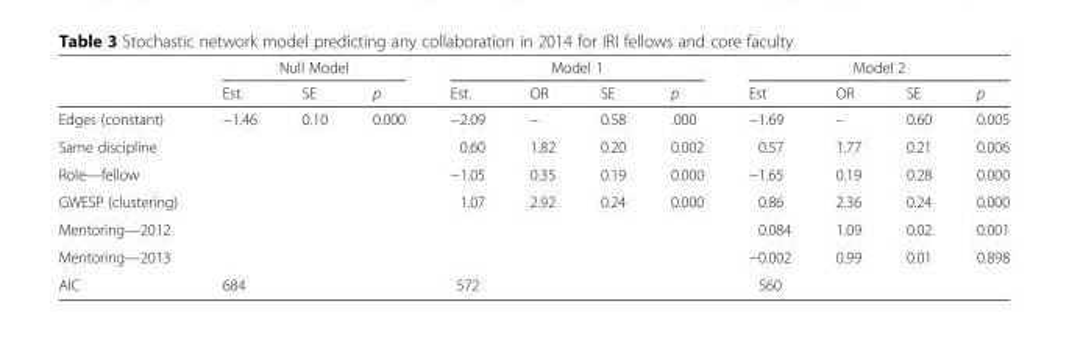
<table><thead><tr><td rowspan="2"></td><td colspan="3">Null Model</td><td colspan="4">Model 1</td><td colspan="4">Model 2</td></tr><tr><td>Est.</td><td>SE</td><td>p</td><td>Est.</td><td>OR</td><td>SE</td><td>p</td><td>Est</td><td>OR</td><td>SE</td><td>p</td></tr></thead><tbody><tr><td>Edges (constant)</td><td>−1.46</td><td>0.10</td><td>0.000</td><td>−2.09</td><td>–</td><td>0.58</td><td>.000</td><td>−1.69</td><td>–</td><td>0.60</td><td>0.005</td></tr><tr><td>Same discipline</td><td></td><td></td><td></td><td>0.60</td><td>1.82</td><td>0.20</td><td>0.002</td><td>0.57</td><td>1.77</td><td>0.21</td><td>0.006</td></tr><tr><td>Role—fellow</td><td></td><td></td><td></td><td>−1.05</td><td>0.35</td><td>0.19</td><td>0.000</td><td>−1.65</td><td>0.19</td><td>0.28</td><td>0.000</td></tr><tr><td>GWESP (clustering)</td><td></td><td></td><td></td><td>1.07</td><td>2.92</td><td>0.24</td><td>0.000</td><td>0.86</td><td>2.36</td><td>0.24</td><td>0.000</td></tr><tr><td>Mentoring—2012</td><td></td><td></td><td></td><td></td><td></td><td></td><td></td><td>0.084</td><td>1.09</td><td>0.02</td><td>0.001</td></tr><tr><td>Mentoring—2013</td><td></td><td></td><td></td><td></td><td></td><td></td><td></td><td>−0.002</td><td>0.99</td><td>0.01</td><td>0.898</td></tr><tr><td>AIC</td><td>684</td><td></td><td></td><td>572</td><td></td><td></td><td></td><td>560</td><td></td><td></td><td></td></tr></tbody></table>